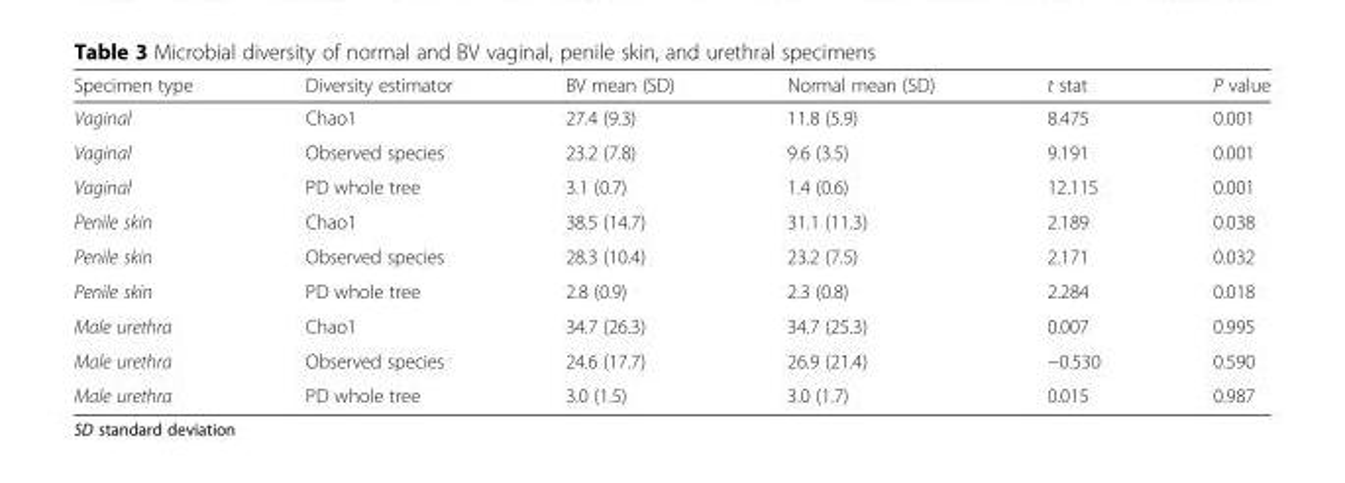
<table><thead><tr><td>Specimen type</td><td>Diversity estimator</td><td>BV mean (SD)</td><td>Normal mean (SD)</td><td>t stat</td><td>P value</td></tr></thead><tbody><tr><td>Vaginal</td><td>Chao1</td><td>27.4 (9.3)</td><td>11.8 (5.9)</td><td>8.475</td><td>0.001</td></tr><tr><td>Vaginal</td><td>Observed species</td><td>23.2 (7.8)</td><td>9.6 (3.5)</td><td>9.191</td><td>0.001</td></tr><tr><td>Vaginal</td><td>PD whole tree</td><td>3.1 (0.7)</td><td>1.4 (0.6)</td><td>12.115</td><td>0.001</td></tr><tr><td>Penile skin</td><td>Chao1</td><td>38.5 (14.7)</td><td>31.1 (11.3)</td><td>2.189</td><td>0.038</td></tr><tr><td>Penile skin</td><td>Observed species</td><td>28.3 (10.4)</td><td>23.2 (7.5)</td><td>2.171</td><td>0.032</td></tr><tr><td>Penile skin</td><td>PD whole tree</td><td>2.8 (0.9)</td><td>2.3 (0.8)</td><td>2.284</td><td>0.018</td></tr><tr><td>Male urethra</td><td>Chao1</td><td>34.7 (26.3)</td><td>34.7 (25.3)</td><td>0.007</td><td>0.995</td></tr><tr><td>Male urethra</td><td>Observed species</td><td>24.6 (17.7)</td><td>26.9 (21.4)</td><td>−0.530</td><td>0.590</td></tr><tr><td>Male urethra</td><td>PD whole tree</td><td>3.0 (1.5)</td><td>3.0 (1.7)</td><td>0.015</td><td>0.987</td></tr></tbody></table>